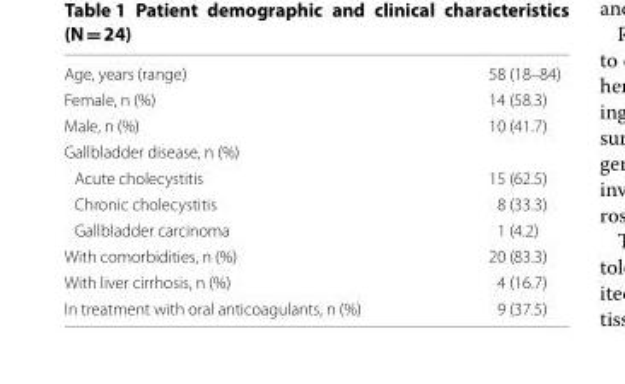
<table><tbody><tr><td>Age, years (range)</td><td>58 (18–84)</td></tr><tr><td>Female, n (%)</td><td>14 (58.3)</td></tr><tr><td>Male, n (%)</td><td>10 (41.7)</td></tr><tr><td colspan="2">Gallbladder disease, n (%)</td></tr><tr><td>Acute cholecystitis</td><td>15 (62.5)</td></tr><tr><td>Chronic cholecystitis</td><td>8 (33.3)</td></tr><tr><td>Gallbladder carcinoma</td><td>1 (4.2)</td></tr><tr><td>With comorbidities, n (%)</td><td>20 (83.3)</td></tr><tr><td>With liver cirrhosis, n (%)</td><td>4 (16.7)</td></tr><tr><td>In treatment with oral anticoagulants, n (%)</td><td>9 (37.5)</td></tr></tbody></table>